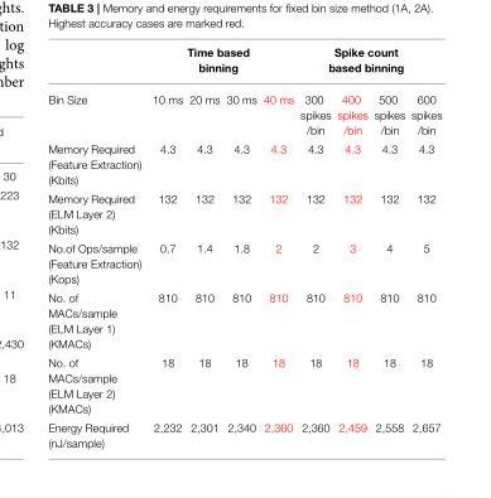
<table><thead><tr><td rowspan="2">Bin Size</td><td colspan="4">Time based binning</td><td colspan="4">Spike count based binning</td></tr><tr><td>10 ms</td><td>20 ms</td><td>30 ms</td><td>40 ms</td><td>300 spikes /bin</td><td>400 spikes /bin</td><td>500 spikes /bin</td><td>600 spikes /bin</td></tr></thead><tbody><tr><td>Memory Required (Feature Extraction) (Kbits)</td><td>4.3</td><td>4.3</td><td>4.3</td><td>4.3</td><td>4.3</td><td>4.3</td><td>4.3</td><td>4.3</td></tr><tr><td>Memory Required (ELM Layer 2) (Kbits)</td><td>132</td><td>132</td><td>132</td><td>132</td><td>132</td><td>132</td><td>132</td><td>132</td></tr><tr><td>No.of Ops/sample (Feature Extraction) (Kops)</td><td>0.7</td><td>1.4</td><td>1.8</td><td>2</td><td>2</td><td>3</td><td>4</td><td>5</td></tr><tr><td>No. of MACs/sample (ELM Layer 1) (KMACs)</td><td>810</td><td>810</td><td>810</td><td>810</td><td>810</td><td>810</td><td>810</td><td>810</td></tr><tr><td>No. of MACs/sample (ELM Layer 2) (KMACs)</td><td>18</td><td>18</td><td>18</td><td>18</td><td>18</td><td>18</td><td>18</td><td>18</td></tr><tr><td>Energy Required (nJ/sample)</td><td>2,232</td><td>2,301</td><td>2,340</td><td>2,360</td><td>2,360</td><td>2,459</td><td>2,558</td><td>2,657</td></tr></tbody></table>